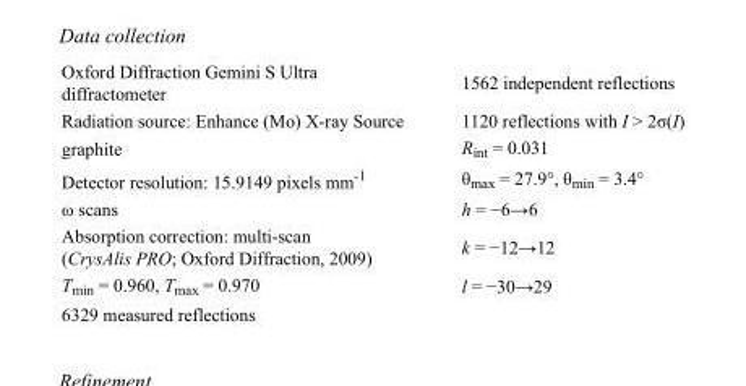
<table><tbody><tr><td>Oxford Diffraction Gemini S Ultra diffractometer</td><td>1562 independent reflections</td></tr><tr><td>Radiation source: Enhance (Mo) X-ray Source</td><td>1120 reflections with I &gt; 2σ(I)</td></tr><tr><td>graphite</td><td>R<sub>int</sub> = 0.031</td></tr><tr><td>Detector resolution: 15.9149 pixels mm<sup>-1</sup></td><td>θ<sub>max</sub> = 27.9°, θ<sub>min</sub> = 3.4°</td></tr><tr><td>ω scans</td><td>h = −6→6</td></tr><tr><td>Absorption correction: multi-scan (CrysAlis PRO; Oxford Diffraction, 2009)</td><td>k = −12→12</td></tr><tr><td>T<sub>min</sub> = 0.960, T<sub>max</sub> = 0.970</td><td>l = −30→29</td></tr><tr><td>6329 measured reflections</td><td></td></tr></tbody></table>